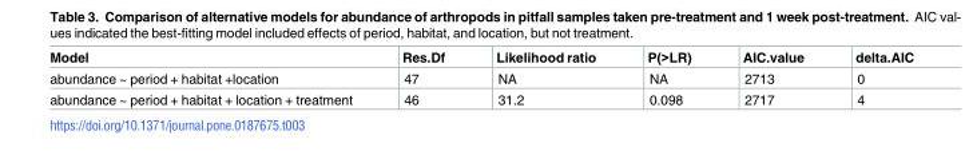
<table><thead><tr><td>Model</td><td>Res.Df</td><td>Likelihood ratio</td><td>P(&gt;LR)</td><td>AIC.value</td><td>delta.AIC</td></tr></thead><tbody><tr><td>abundance ~ period + habitat +location</td><td>47</td><td>NA</td><td>NA</td><td>2713</td><td>0</td></tr><tr><td>abundance ~ period + habitat + location + treatment</td><td>46</td><td>31.2</td><td>0.098</td><td>2717</td><td>4</td></tr></tbody></table>